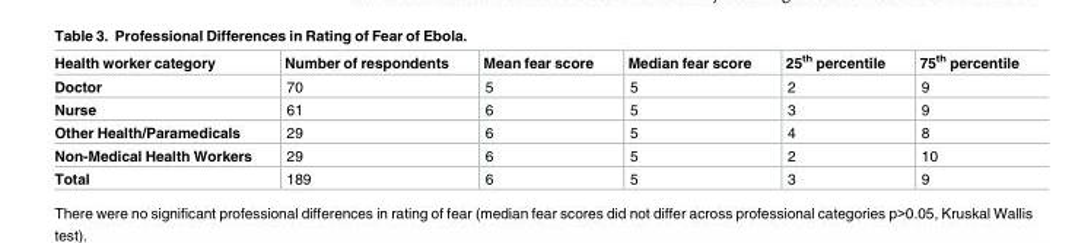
<table><thead><tr><td>Health worker category</td><td>Number of respondents</td><td>Mean fear score</td><td>Median fear score</td><td>25<sup>th</sup> percentile</td><td>75<sup>th</sup> percentile</td></tr></thead><tbody><tr><td>Doctor</td><td>70</td><td>5</td><td>5</td><td>2</td><td>9</td></tr><tr><td>Nurse</td><td>61</td><td>6</td><td>5</td><td>3</td><td>9</td></tr><tr><td>Other Health/Paramedicals</td><td>29</td><td>6</td><td>5</td><td>4</td><td>8</td></tr><tr><td>Non-Medical Health Workers</td><td>29</td><td>6</td><td>5</td><td>2</td><td>10</td></tr><tr><td>Total</td><td>189</td><td>6</td><td>5</td><td>3</td><td>9</td></tr></tbody></table>